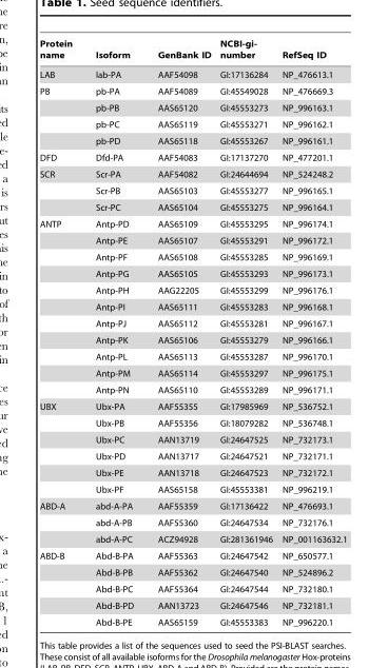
<table><thead><tr><td>Protein name</td><td>Isoform</td><td>GenBank ID</td><td>NCBI-gi- number</td><td>RefSeq ID</td></tr></thead><tbody><tr><td>LAB</td><td>lab-PA</td><td>AAF54098</td><td>GI:17136284</td><td>NP_476613.1</td></tr><tr><td rowspan="4">PB</td><td>pb-PA</td><td>AAF54089</td><td>GI:45549028</td><td>NP_476669.3</td></tr><tr><td>pb-PB</td><td>AAS65120</td><td>GI:45553273</td><td>NP_996163.1</td></tr><tr><td>pb-PC</td><td>AAS65119</td><td>GI:45553271</td><td>NP_996162.1</td></tr><tr><td>pb-PD</td><td>AAS65118</td><td>GI:45553267</td><td>NP_996161.1</td></tr><tr><td>DFD</td><td>Dfd-PA</td><td>AAF54083</td><td>GI:17137270</td><td>NP_477201.1</td></tr><tr><td rowspan="3">SCR</td><td>Scr-PA</td><td>AAF54082</td><td>GI:24644694</td><td>NP_524248.2</td></tr><tr><td>Scr-PB</td><td>AAS65103</td><td>GI:45553277</td><td>NP_996165.1</td></tr><tr><td>Scr-PC</td><td>AAS65104</td><td>GI:45553275</td><td>NP_996164.1</td></tr><tr><td rowspan="11">ANTP</td><td>Antp-PD</td><td>AAS65109</td><td>GI:45553295</td><td>NP_996174.1</td></tr><tr><td>Antp-PE</td><td>AAS65107</td><td>GI:45553291</td><td>NP_996172.1</td></tr><tr><td>Antp-PF</td><td>AAS65108</td><td>GI:45553285</td><td>NP_996169.1</td></tr><tr><td>Antp-PG</td><td>AAS65105</td><td>GI:45553293</td><td>NP_996173.1</td></tr><tr><td>Antp-PH</td><td>AAG22205</td><td>GI:45553299</td><td>NP_996176.1</td></tr><tr><td>Antp-PI</td><td>AAS65111</td><td>GI:45553283</td><td>NP_996168.1</td></tr><tr><td>Antp-PJ</td><td>AAS65112</td><td>GI:45553281</td><td>NP_996167.1</td></tr><tr><td>Antp-PK</td><td>AAS65106</td><td>GI:45553279</td><td>NP_996166.1</td></tr><tr><td>Antp-PL</td><td>AAS65113</td><td>GI:45553287</td><td>NP_996170.1</td></tr><tr><td>Antp-PM</td><td>AAS65114</td><td>GI:45553297</td><td>NP_996175.1</td></tr><tr><td>Antp-PN</td><td>AAS65110</td><td>GI:45553289</td><td>NP_996171.1</td></tr><tr><td rowspan="6">UBX</td><td>Ubx-PA</td><td>AAF55355</td><td>GI:17985969</td><td>NP_536752.1</td></tr><tr><td>Ubx-PB</td><td>AAF55356</td><td>GI:18079282</td><td>NP_536748.1</td></tr><tr><td>Ubx-PC</td><td>AAN13719</td><td>GI:24647525</td><td>NP_732173.1</td></tr><tr><td>Ubx-PD</td><td>AAN13717</td><td>GI:24647521</td><td>NP_732171.1</td></tr><tr><td>Ubx-PE</td><td>AAN13718</td><td>GI:24647523</td><td>NP_732172.1</td></tr><tr><td>Ubx-PF</td><td>AAS65158</td><td>GI:45553381</td><td>NP_996219.1</td></tr><tr><td rowspan="3">ABD-A</td><td>abd-A-PA</td><td>AAF55359</td><td>GI:17136422</td><td>NP_476693.1</td></tr><tr><td>abd-A-PB</td><td>AAF55360</td><td>GI:24647534</td><td>NP_732176.1</td></tr><tr><td>abd-A-PC</td><td>ACZ94928</td><td>GI:281361946</td><td>NP_001163632.1</td></tr><tr><td rowspan="5">ABD-B</td><td>Abd-B-PA</td><td>AAF55363</td><td>GI:24647542</td><td>NP_650577.1</td></tr><tr><td>Abd-B-PB</td><td>AAF55362</td><td>GI:24647540</td><td>NP_524896.2</td></tr><tr><td>Abd-B-PC</td><td>AAF55364</td><td>GI:24647544</td><td>NP_732180.1</td></tr><tr><td>Abd-B-PD</td><td>AAN13723</td><td>GI:24647546</td><td>NP_732181.1</td></tr><tr><td>Abd-B-PE</td><td>AAS65159</td><td>GI:45553383</td><td>NP_996220.1</td></tr></tbody></table>